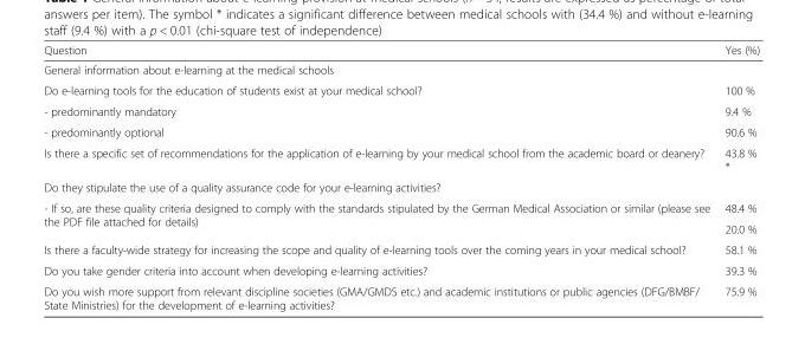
<table><thead><tr><td>Question</td><td>Yes (%)</td></tr></thead><tbody><tr><td colspan="2">General information about e-learning at the medical schools</td></tr><tr><td>Do e-learning tools for the education of students exist at your medical school?</td><td>100 %</td></tr><tr><td>- predominantly mandatory</td><td>9.4 %</td></tr><tr><td>- predominantly optional</td><td>90.6 %</td></tr><tr><td>Is there a specific set of recommendations for the application of e-learning by your medical school from the academic board or deanery?</td><td>43.8 % *</td></tr><tr><td colspan="2">Do they stipulate the use of a quality assurance code for your e-learning activities?</td></tr><tr><td rowspan="2">- If so, are these quality criteria designed to comply with the standards stipulated by the German Medical Association or similar (please see the PDF file attached for details)</td><td>48.4 %</td></tr><tr><td>20.0 %</td></tr><tr><td>Is there a faculty-wide strategy for increasing the scope and quality of e-learning tools over the coming years in your medical school?</td><td>58.1 %</td></tr><tr><td>Do you take gender criteria into account when developing e-learning activities?</td><td>39.3 %</td></tr><tr><td>Do you wish more support from relevant discipline societies (GMA/GMDS etc.) and academic institutions or public agencies (DFG/BMBF/ State Ministries) for the development of e-learning activities?</td><td>75.9 %</td></tr></tbody></table>